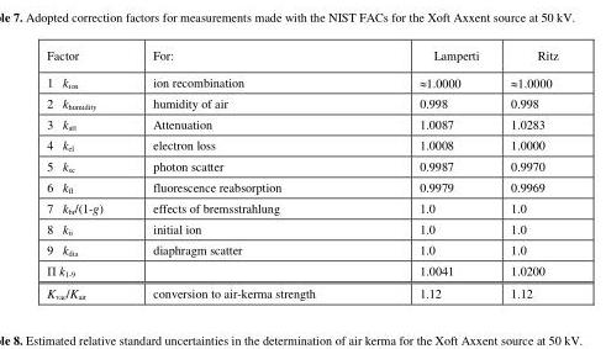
<table><thead><tr><td>Factor</td><td>For:</td><td>Lamperti</td><td>Ritz</td></tr></thead><tbody><tr><td>1 k<sub>ion</sub></td><td>ion recombination</td><td>≈1.0000</td><td>≈1.0000</td></tr><tr><td>2 k<sub>humidity</sub></td><td>humidity of air</td><td>0.998</td><td>0.998</td></tr><tr><td>3 k<sub>att</sub></td><td>Attenuation</td><td>1.0087</td><td>1.0283</td></tr><tr><td>4 k<sub>el</sub></td><td>electron loss</td><td>1.0008</td><td>1.0000</td></tr><tr><td>5 k<sub>sc</sub></td><td>photon scatter</td><td>0.9987</td><td>0.9970</td></tr><tr><td>6 k<sub>fl</sub></td><td>fluorescence reabsorption</td><td>0.9979</td><td>0.9969</td></tr><tr><td>7 k<sub>br</sub>/(1-g)</td><td>effects of bremsstrahlung</td><td>1.0</td><td>1.0</td></tr><tr><td>8 k<sub>ii</sub></td><td>initial ion</td><td>1.0</td><td>1.0</td></tr><tr><td>9 k<sub>dia</sub></td><td>diaphragm scatter</td><td>1.0</td><td>1.0</td></tr><tr><td>П k<sub>1-9</sub></td><td></td><td>1.0041</td><td>1.0200</td></tr><tr><td>K<sub>vac</sub>/K<sub>air</sub></td><td>conversion to air-kerma strength</td><td>1.12</td><td>1.12</td></tr></tbody></table>